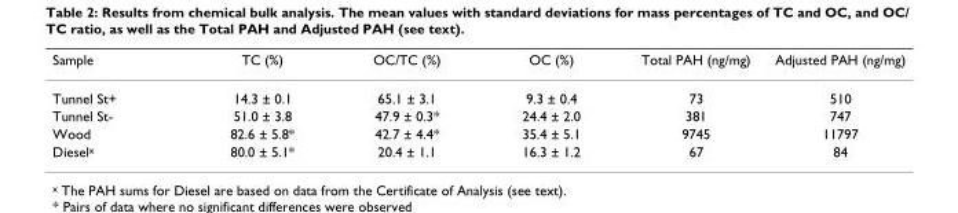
<table><thead><tr><td>Sample</td><td>TC (%)</td><td>OC/TC (%)</td><td>OC (%)</td><td>Total PAH (ng/mg)</td><td>Adjusted PAH (ng/mg)</td></tr></thead><tbody><tr><td>Tunnel St+</td><td>14.3 ± 0.1</td><td>65.1 ± 3.1</td><td>9.3 ± 0.4</td><td>73</td><td>510</td></tr><tr><td>Tunnel St-</td><td>51.0 ± 3.8</td><td>47.9 ± 0.3*</td><td>24.4 ± 2.0</td><td>381</td><td>747</td></tr><tr><td>Wood</td><td>82.6 ± 5.8*</td><td>42.7 ± 4.4*</td><td>35.4 ± 5.1</td><td>9745</td><td>11797</td></tr><tr><td>Diesel<sup>x</sup></td><td>80.0 ± 5.1*</td><td>20.4 ± 1.1</td><td>16.3 ± 1.2</td><td>67</td><td>84</td></tr></tbody></table>